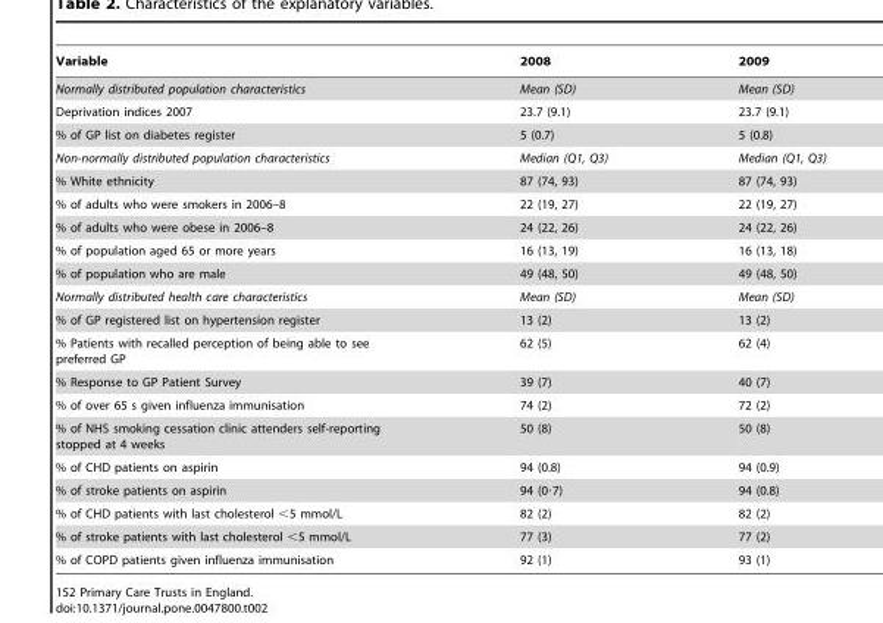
<table><thead><tr><td>Variable</td><td>2008</td><td>2009</td></tr></thead><tbody><tr><td>Normally distributed population characteristics</td><td>Mean (SD)</td><td>Mean (SD)</td></tr><tr><td>Deprivation indices 2007</td><td>23.7 (9.1)</td><td>23.7 (9.1)</td></tr><tr><td>% of GP list on diabetes register</td><td>5 (0.7)</td><td>5 (0.8)</td></tr><tr><td>Non-normally distributed population characteristics</td><td>Median (Q1, Q3)</td><td>Median (Q1, Q3)</td></tr><tr><td>% White ethnicity</td><td>87 (74, 93)</td><td>87 (74, 93)</td></tr><tr><td>% of adults who were smokers in 2006–8</td><td>22 (19, 27)</td><td>22 (19, 27)</td></tr><tr><td>% of adults who were obese in 2006–8</td><td>24 (22, 26)</td><td>24 (22, 26)</td></tr><tr><td>% of population aged 65 or more years</td><td>16 (13, 19)</td><td>16 (13, 18)</td></tr><tr><td>% of population who are male</td><td>49 (48, 50)</td><td>49 (48, 50)</td></tr><tr><td>Normally distributed health care characteristics</td><td>Mean (SD)</td><td>Mean (SD)</td></tr><tr><td>% of GP registered list on hypertension register</td><td>13 (2)</td><td>13 (2)</td></tr><tr><td>% Patients with recalled perception of being able to see preferred GP</td><td>62 (5)</td><td>62 (4)</td></tr><tr><td>% Response to GP Patient Survey</td><td>39 (7)</td><td>40 (7)</td></tr><tr><td>% of over 65 s given influenza immunisation</td><td>74 (2)</td><td>72 (2)</td></tr><tr><td>% of NHS smoking cessation clinic attenders self-reporting stopped at 4 weeks</td><td>50 (8)</td><td>50 (8)</td></tr><tr><td>% of CHD patients on aspirin</td><td>94 (0.8)</td><td>94 (0.9)</td></tr><tr><td>% of stroke patients on aspirin</td><td>94 (0·7)</td><td>94 (0.8)</td></tr><tr><td>% of CHD patients with last cholesterol &lt;5 mmol/L</td><td>82 (2)</td><td>82 (2)</td></tr><tr><td>% of stroke patients with last cholesterol &lt;5 mmol/L</td><td>77 (3)</td><td>77 (2)</td></tr><tr><td>% of COPD patients given influenza immunisation</td><td>92 (1)</td><td>93 (1)</td></tr></tbody></table>